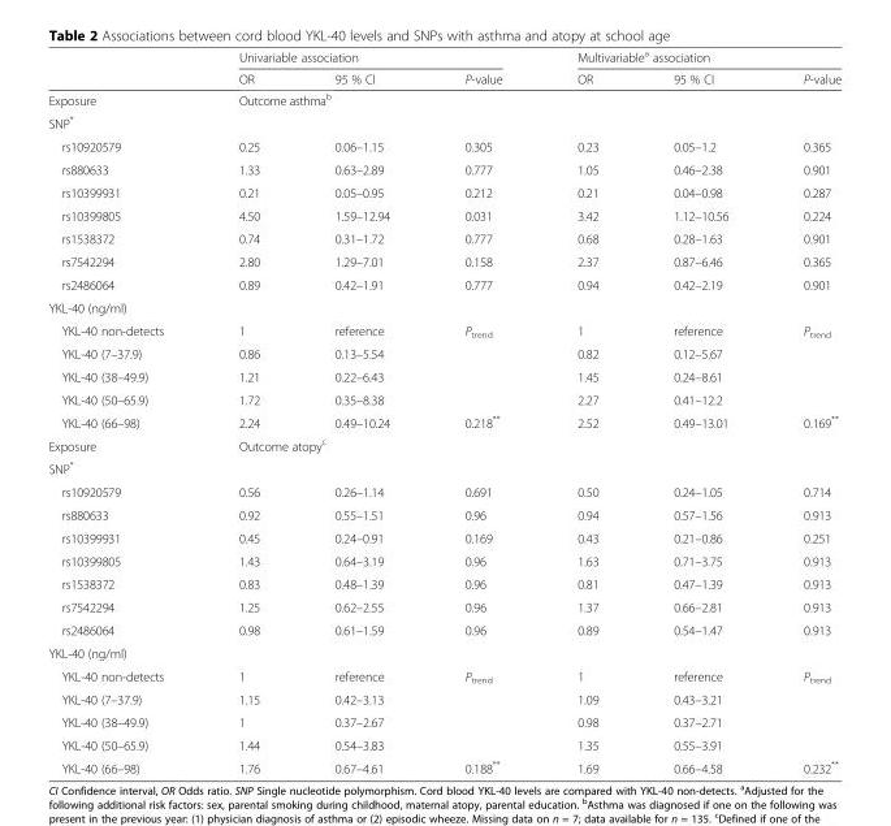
<table><thead><tr><td rowspan="2"></td><td colspan="3">Univariable association</td><td colspan="3">Multivariable<sup>a</sup> association</td></tr><tr><td>OR</td><td>95 % CI</td><td>P-value</td><td>OR</td><td>95 % CI</td><td>P-value</td></tr></thead><tbody><tr><td>Exposure</td><td colspan="6">Outcome asthma<sup>b</sup></td></tr><tr><td colspan="7">SNP*</td></tr><tr><td>rs10920579</td><td>0.25</td><td>0.06–1.15</td><td>0.305</td><td>0.23</td><td>0.05–1.2</td><td>0.365</td></tr><tr><td>rs880633</td><td>1.33</td><td>0.63–2.89</td><td>0.777</td><td>1.05</td><td>0.46–2.38</td><td>0.901</td></tr><tr><td>rs10399931</td><td>0.21</td><td>0.05–0.95</td><td>0.212</td><td>0.21</td><td>0.04–0.98</td><td>0.287</td></tr><tr><td>rs10399805</td><td>4.50</td><td>1.59–12.94</td><td>0.031</td><td>3.42</td><td>1.12–10.56</td><td>0.224</td></tr><tr><td>rs1538372</td><td>0.74</td><td>0.31–1.72</td><td>0.777</td><td>0.68</td><td>0.28–1.63</td><td>0.901</td></tr><tr><td>rs7542294</td><td>2.80</td><td>1.29–7.01</td><td>0.158</td><td>2.37</td><td>0.87–6.46</td><td>0.365</td></tr><tr><td>rs2486064</td><td>0.89</td><td>0.42–1.91</td><td>0.777</td><td>0.94</td><td>0.42–2.19</td><td>0.901</td></tr><tr><td colspan="7">YKL-40 (ng/ml)</td></tr><tr><td>YKL-40 non-detects</td><td>1</td><td>reference</td><td>P<sub>trend</sub></td><td>1</td><td>reference</td><td>P<sub>trend</sub></td></tr><tr><td>YKL-40 (7–37.9)</td><td>0.86</td><td>0.13–5.54</td><td></td><td>0.82</td><td>0.12–5.67</td><td></td></tr><tr><td>YKL-40 (38–49.9)</td><td>1.21</td><td>0.22–6.43</td><td></td><td>1.45</td><td>0.24–8.61</td><td></td></tr><tr><td>YKL-40 (50–65.9)</td><td>1.72</td><td>0.35–8.38</td><td></td><td>2.27</td><td>0.41–12.2</td><td></td></tr><tr><td>YKL-40 (66–98)</td><td>2.24</td><td>0.49–10.24</td><td>0.218**</td><td>2.52</td><td>0.49–13.01</td><td>0.169**</td></tr><tr><td>Exposure</td><td colspan="6">Outcome atopy<sup>c</sup></td></tr><tr><td colspan="7">SNP*</td></tr><tr><td>rs10920579</td><td>0.56</td><td>0.26–1.14</td><td>0.691</td><td>0.50</td><td>0.24–1.05</td><td>0.714</td></tr><tr><td>rs880633</td><td>0.92</td><td>0.55–1.51</td><td>0.96</td><td>0.94</td><td>0.57–1.56</td><td>0.913</td></tr><tr><td>rs10399931</td><td>0.45</td><td>0.24–0.91</td><td>0.169</td><td>0.43</td><td>0.21–0.86</td><td>0.251</td></tr><tr><td>rs10399805</td><td>1.43</td><td>0.64–3.19</td><td>0.96</td><td>1.63</td><td>0.71–3.75</td><td>0.913</td></tr><tr><td>rs1538372</td><td>0.83</td><td>0.48–1.39</td><td>0.96</td><td>0.81</td><td>0.47–1.39</td><td>0.913</td></tr><tr><td>rs7542294</td><td>1.25</td><td>0.62–2.55</td><td>0.96</td><td>1.37</td><td>0.66–2.81</td><td>0.913</td></tr><tr><td>rs2486064</td><td>0.98</td><td>0.61–1.59</td><td>0.96</td><td>0.89</td><td>0.54–1.47</td><td>0.913</td></tr><tr><td colspan="7">YKL-40 (ng/ml)</td></tr><tr><td>YKL-40 non-detects</td><td>1</td><td>reference</td><td>P<sub>trend</sub></td><td>1</td><td>reference</td><td>P<sub>trend</sub></td></tr><tr><td>YKL-40 (7–37.9)</td><td>1.15</td><td>0.42–3.13</td><td></td><td>1.09</td><td>0.43–3.21</td><td></td></tr><tr><td>YKL-40 (38–49.9)</td><td>1</td><td>0.37–2.67</td><td></td><td>0.98</td><td>0.37–2.71</td><td></td></tr><tr><td>YKL-40 (50–65.9)</td><td>1.44</td><td>0.54–3.83</td><td></td><td>1.35</td><td>0.55–3.91</td><td></td></tr><tr><td>YKL-40 (66–98)</td><td>1.76</td><td>0.67–4.61</td><td>0.188**</td><td>1.69</td><td>0.66–4.58</td><td>0.232**</td></tr></tbody></table>